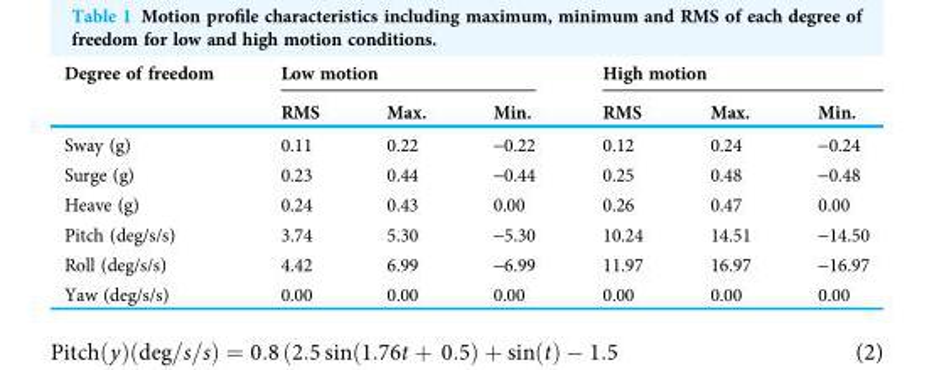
<table><thead><tr><td rowspan="2">Degree of freedom</td><td colspan="3">Low motion</td><td colspan="3">High motion</td></tr><tr><td>RMS</td><td>Max.</td><td>Min.</td><td>RMS</td><td>Max.</td><td>Min.</td></tr></thead><tbody><tr><td>Sway (g)</td><td>0.11</td><td>0.22</td><td>-0.22</td><td>0.12</td><td>0.24</td><td>-0.24</td></tr><tr><td>Surge (g)</td><td>0.23</td><td>0.44</td><td>-0.44</td><td>0.25</td><td>0.48</td><td>-0.48</td></tr><tr><td>Heave (g)</td><td>0.24</td><td>0.43</td><td>0.00</td><td>0.26</td><td>0.47</td><td>0.00</td></tr><tr><td>Pitch (deg/s/s)</td><td>3.74</td><td>5.30</td><td>-5.30</td><td>10.24</td><td>14.51</td><td>-14.50</td></tr><tr><td>Roll (deg/s/s)</td><td>4.42</td><td>6.99</td><td>-6.99</td><td>11.97</td><td>16.97</td><td>-16.97</td></tr><tr><td>Yaw (deg/s/s)</td><td>0.00</td><td>0.00</td><td>0.00</td><td>0.00</td><td>0.00</td><td>0.00</td></tr></tbody></table>